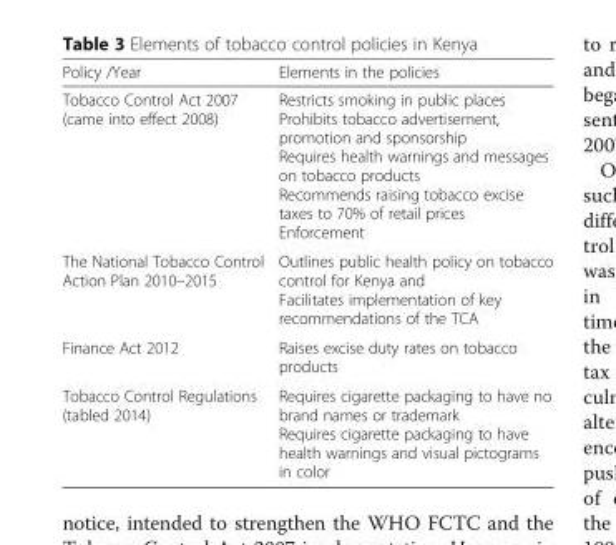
<table><thead><tr><td>Policy /Year</td><td>Elements in the policies</td></tr></thead><tbody><tr><td>Tobacco Control Act 2007 (came into effect 2008)</td><td>Restricts smoking in public places Prohibits tobacco advertisement, promotion and sponsorship Requires health warnings and messages on tobacco products Recommends raising tobacco excise taxes to 70% of retail prices Enforcement</td></tr><tr><td>The National Tobacco Control Action Plan 2010–2015</td><td>Outlines public health policy on tobacco control for Kenya and Facilitates implementation of key recommendations of the TCA</td></tr><tr><td>Finance Act 2012</td><td>Raises excise duty rates on tobacco products</td></tr><tr><td>Tobacco Control Regulations (tabled 2014)</td><td>Requires cigarette packaging to have no brand names or trademark Requires cigarette packaging to have health warnings and visual pictograms in color</td></tr></tbody></table>